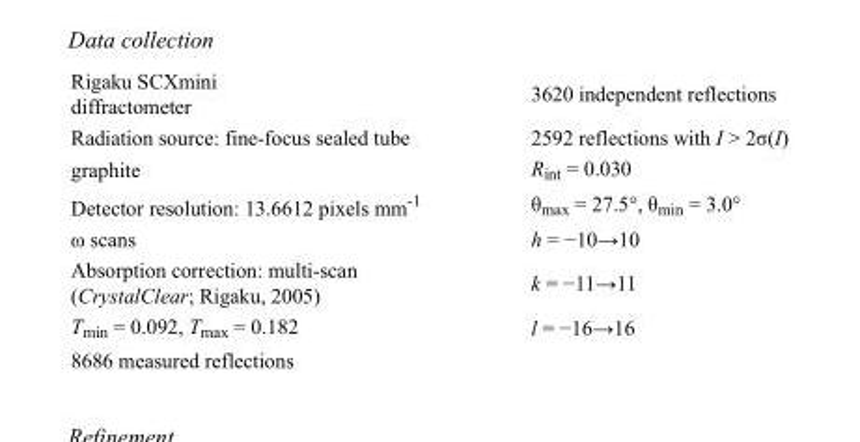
<table><tbody><tr><td>Rigaku SCXmini diffractometer</td><td>3620 independent reflections</td></tr><tr><td>Radiation source: fine-focus sealed tube</td><td>2592 reflections with I &gt; 2σ(I)</td></tr><tr><td>graphite</td><td>R<sub>int</sub> = 0.030</td></tr><tr><td>Detector resolution: 13.6612 pixels mm<sup>-1</sup></td><td>θ<sub>max</sub> = 27.5°, θ<sub>min</sub> = 3.0°</td></tr><tr><td>ω scans</td><td>h = −10→10</td></tr><tr><td>Absorption correction: multi-scan (CrystalClear; Rigaku, 2005)</td><td>k = −11→11</td></tr><tr><td>T<sub>min</sub> = 0.092, T<sub>max</sub> = 0.182</td><td>l = −16→16</td></tr><tr><td>8686 measured reflections</td><td></td></tr></tbody></table>